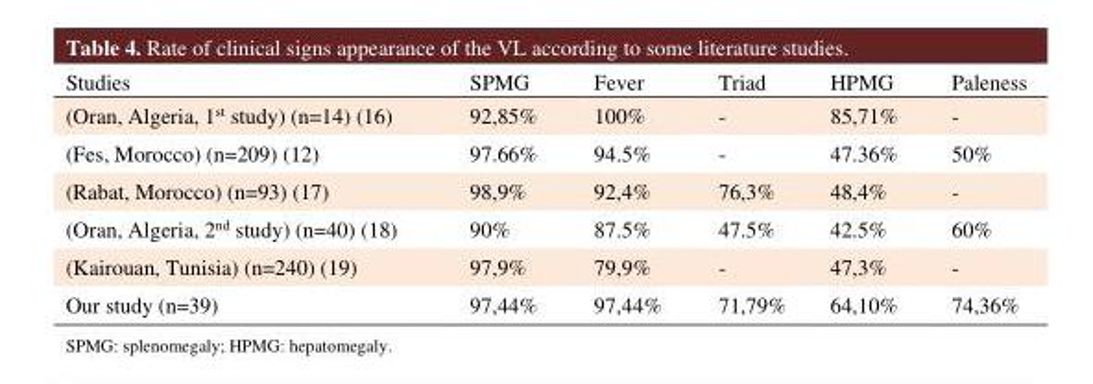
<table><thead><tr><td>Studies</td><td>SPMG</td><td>Fever</td><td>Triad</td><td>HPMG</td><td>Paleness</td></tr></thead><tbody><tr><td>(Oran, Algeria, 1<sup>st</sup> study) (n=14) (16)</td><td>92,85%</td><td>100%</td><td>-</td><td>85,71%</td><td>-</td></tr><tr><td>(Fes, Morocco) (n=209) (12)</td><td>97.66%</td><td>94.5%</td><td>-</td><td>47.36%</td><td>50%</td></tr><tr><td>(Rabat, Morocco) (n=93) (17)</td><td>98,9%</td><td>92,4%</td><td>76,3%</td><td>48,4%</td><td>-</td></tr><tr><td>(Oran, Algeria, 2<sup>nd</sup> study) (n=40) (18)</td><td>90%</td><td>87.5%</td><td>47.5%</td><td>42.5%</td><td>60%</td></tr><tr><td>(Kairouan, Tunisia) (n=240) (19)</td><td>97,9%</td><td>79,9%</td><td>-</td><td>47,3%</td><td>-</td></tr><tr><td>Our study (n=39)</td><td>97,44%</td><td>97,44%</td><td>71,79%</td><td>64,10%</td><td>74,36%</td></tr></tbody></table>